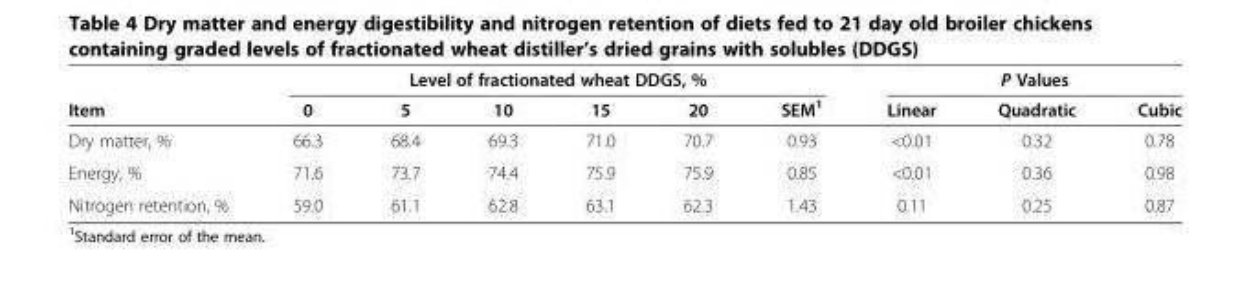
<table><thead><tr><td rowspan="2">Item</td><td colspan="6">Level of fractionated wheat DDGS, %</td><td colspan="3">P Values</td></tr><tr><td>0</td><td>5</td><td>10</td><td>15</td><td>20</td><td>SEM<sup>1</sup></td><td>Linear</td><td>Quadratic</td><td>Cubic</td></tr></thead><tbody><tr><td>Dry matter, %</td><td>66.3</td><td>68.4</td><td>69.3</td><td>71.0</td><td>70.7</td><td>0.93</td><td>&lt;0.01</td><td>0.32</td><td>0.78</td></tr><tr><td>Energy, %</td><td>71.6</td><td>73.7</td><td>74.4</td><td>75.9</td><td>75.9</td><td>0.85</td><td>&lt;0.01</td><td>0.36</td><td>0.98</td></tr><tr><td>Nitrogen retention, %</td><td>59.0</td><td>61.1</td><td>62.8</td><td>63.1</td><td>62.3</td><td>1.43</td><td>0.11</td><td>0.25</td><td>0.87</td></tr></tbody></table>